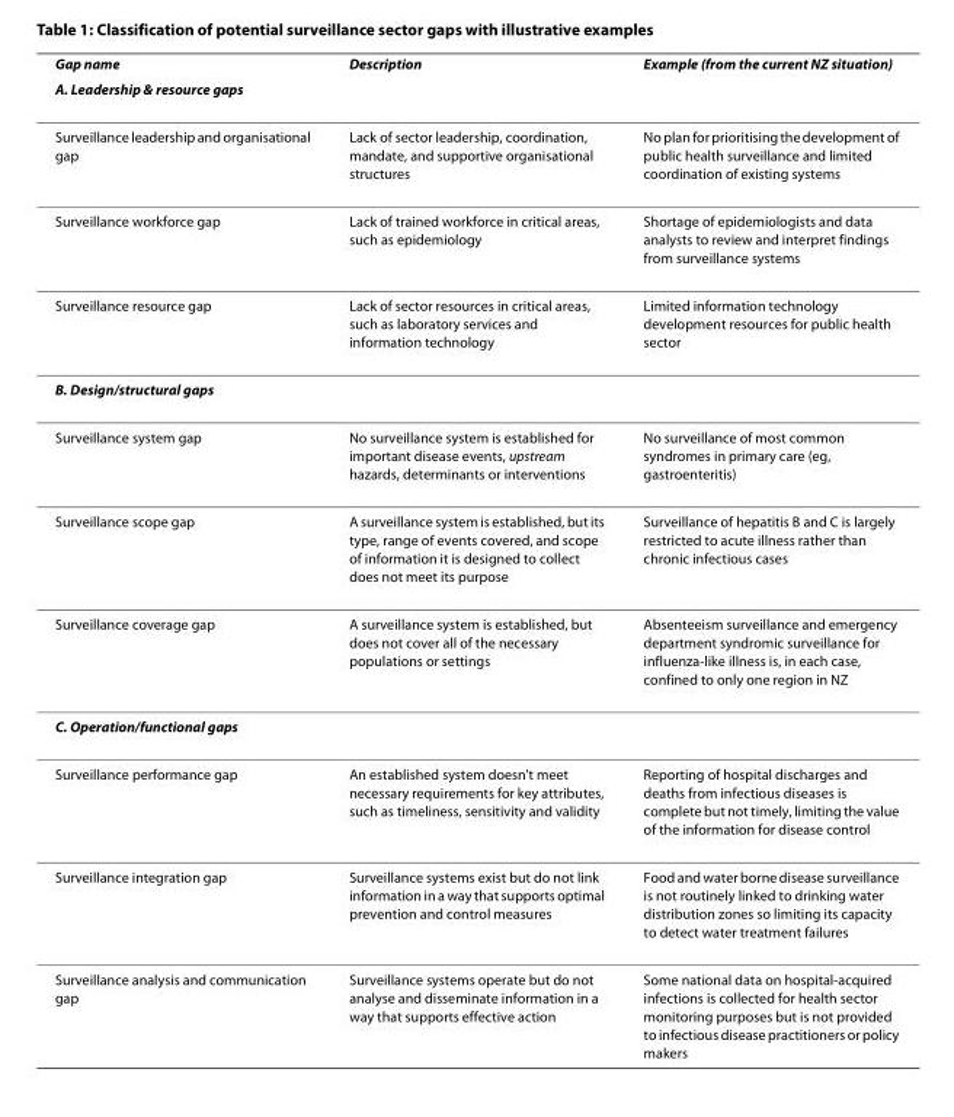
<table><thead><tr><td>Gap name</td><td>Description</td><td>Example (from the current NZ situation)</td></tr><tr><td colspan="3">A. Leadership &amp; resource gaps</td></tr></thead><tbody><tr><td>Surveillance leadership and organisational gap</td><td>Lack of sector leadership, coordination, mandate, and supportive organisational structures</td><td>No plan for prioritising the development of public health surveillance and limited coordination of existing systems</td></tr><tr><td>Surveillance workforce gap</td><td>Lack of trained workforce in critical areas, such as epidemiology</td><td>Shortage of epidemiologists and data analysts to review and interpret findings from surveillance systems</td></tr><tr><td>Surveillance resource gap</td><td>Lack of sector resources in critical areas, such as laboratory services and information technology</td><td>Limited information technology development resources for public health sector</td></tr><tr><td colspan="3">B. Design/structural gaps</td></tr><tr><td>Surveillance system gap</td><td>No surveillance system is established for important disease events, upstream hazards, determinants or interventions</td><td>No surveillance of most common syndromes in primary care (eg, gastroenteritis)</td></tr><tr><td>Surveillance scope gap</td><td>A surveillance system is established, but its type, range of events covered, and scope of information it is designed to collect does not meet its purpose</td><td>Surveillance of hepatitis B and C is largely restricted to acute illness rather than chronic infectious cases</td></tr><tr><td>Surveillance coverage gap</td><td>A surveillance system is established, but does not cover all of the necessary populations or settings</td><td>Absenteeism surveillance and emergency department syndromic surveillance for influenza-like illness is, in each case, confined to only one region in NZ</td></tr><tr><td colspan="3">C. Operation/functional gaps</td></tr><tr><td>Surveillance performance gap</td><td>An established system doesn&#x27;t meet necessary requirements for key attributes, such as timeliness, sensitivity and validity</td><td>Reporting of hospital discharges and deaths from infectious diseases is complete but not timely, limiting the value of the information for disease control</td></tr><tr><td>Surveillance integration gap</td><td>Surveillance systems exist but do not link information in a way that supports optimal prevention and control measures</td><td>Food and water borne disease surveillance is not routinely linked to drinking water distribution zones so limiting its capacity to detect water treatment failures</td></tr><tr><td>Surveillance analysis and communication gap</td><td>Surveillance systems operate but do not analyse and disseminate information in a way that supports effective action</td><td>Some national data on hospital-acquired infections is collected for health sector monitoring purposes but is not provided to infectious disease practitioners or policy makers</td></tr></tbody></table>